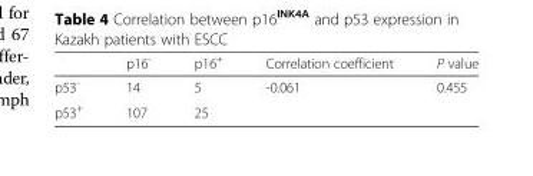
<table><thead><tr><td></td><td>p16<sup>-</sup></td><td>p16<sup>+</sup></td><td>Correlation coefficient</td><td>P value</td></tr></thead><tbody><tr><td>p53<sup>-</sup></td><td>14</td><td>5</td><td rowspan="2">-0.061</td><td rowspan="2">0.455</td></tr><tr><td>p53<sup>+</sup></td><td>107</td><td>25</td></tr></tbody></table>